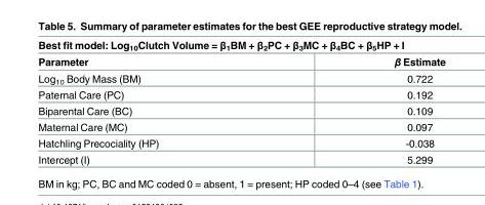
<table><thead><tr><td colspan="2">Best fit model: Log<sub>10</sub>Clutch Volume = β<sub>1</sub>BM + β<sub>2</sub>PC + β<sub>3</sub>MC + β<sub>4</sub>BC + β<sub>5</sub>HP + I</td></tr><tr><td>Parameter</td><td>β Estimate</td></tr></thead><tbody><tr><td>Log<sub>10</sub> Body Mass (BM)</td><td>0.722</td></tr><tr><td>Paternal Care (PC)</td><td>0.192</td></tr><tr><td>Biparental Care (BC)</td><td>0.109</td></tr><tr><td>Maternal Care (MC)</td><td>0.097</td></tr><tr><td>Hatchling Precociality (HP)</td><td>-0.038</td></tr><tr><td>Intercept (I)</td><td>5.299</td></tr></tbody></table>